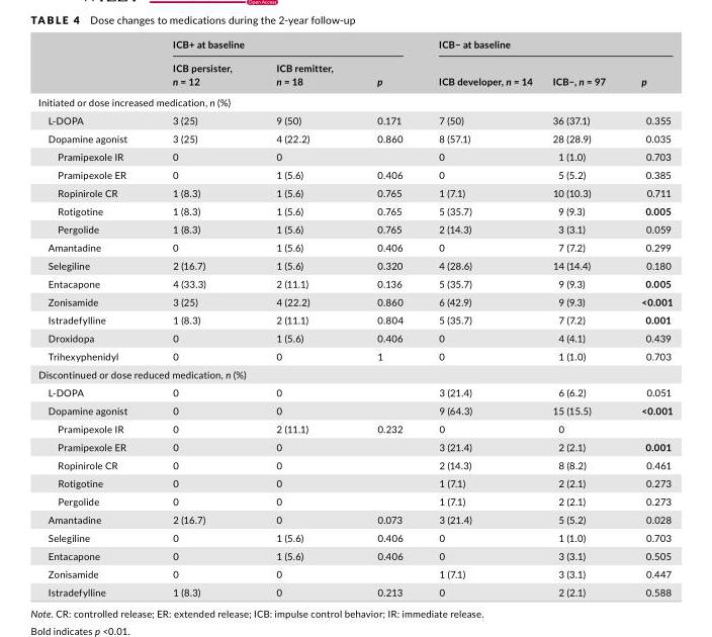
<table><thead><tr><td rowspan="2"></td><td colspan="3">ICB+ at baseline</td><td colspan="3">ICB− at baseline</td></tr><tr><td>ICB persister, n = 12</td><td>ICB remitter, n = 18</td><td>p</td><td>ICB developer, n = 14</td><td>ICB−, n = 97</td><td>p</td></tr></thead><tbody><tr><td colspan="7">Initiated or dose increased medication, n (%)</td></tr><tr><td>L- DOPA</td><td>3 (25)</td><td>9 (50)</td><td>0.171</td><td>7 (50)</td><td>36 (37.1)</td><td>0.355</td></tr><tr><td>Dopamine agonist</td><td>3 (25)</td><td>4 (22.2)</td><td>0.860</td><td>8 (57.1)</td><td>28 (28.9)</td><td>0.035</td></tr><tr><td>Pramipexole IR</td><td>0</td><td>0</td><td></td><td>0</td><td>1 (1.0)</td><td>0.703</td></tr><tr><td>Pramipexole ER</td><td>0</td><td>1 (5.6)</td><td>0.406</td><td>0</td><td>5 (5.2)</td><td>0.385</td></tr><tr><td>Ropinirole CR</td><td>1 (8.3)</td><td>1 (5.6)</td><td>0.765</td><td>1 (7.1)</td><td>10 (10.3)</td><td>0.711</td></tr><tr><td>Rotigotine</td><td>1 (8.3)</td><td>1 (5.6)</td><td>0.765</td><td>5 (35.7)</td><td>9 (9.3)</td><td>0.005</td></tr><tr><td>Pergolide</td><td>1 (8.3)</td><td>1 (5.6)</td><td>0.765</td><td>2 (14.3)</td><td>3 (3.1)</td><td>0.059</td></tr><tr><td>Amantadine</td><td>0</td><td>1 (5.6)</td><td>0.406</td><td>0</td><td>7 (7.2)</td><td>0.299</td></tr><tr><td>Selegiline</td><td>2 (16.7)</td><td>1 (5.6)</td><td>0.320</td><td>4 (28.6)</td><td>14 (14.4)</td><td>0.180</td></tr><tr><td>Entacapone</td><td>4 (33.3)</td><td>2 (11.1)</td><td>0.136</td><td>5 (35.7)</td><td>9 (9.3)</td><td>0.005</td></tr><tr><td>Zonisamide</td><td>3 (25)</td><td>4 (22.2)</td><td>0.860</td><td>6 (42.9)</td><td>9 (9.3)</td><td>&lt;0.001</td></tr><tr><td>Istradefylline</td><td>1 (8.3)</td><td>2 (11.1)</td><td>0.804</td><td>5 (35.7)</td><td>7 (7.2)</td><td>0.001</td></tr><tr><td>Droxidopa</td><td>0</td><td>1 (5.6)</td><td>0.406</td><td>0</td><td>4 (4.1)</td><td>0.439</td></tr><tr><td>Trihexyphenidyl</td><td>0</td><td>0</td><td>1</td><td>0</td><td>1 (1.0)</td><td>0.703</td></tr><tr><td colspan="7">Discontinued or dose reduced medication, n (%)</td></tr><tr><td>L- DOPA</td><td>0</td><td>0</td><td></td><td>3 (21.4)</td><td>6 (6.2)</td><td>0.051</td></tr><tr><td>Dopamine agonist</td><td>0</td><td>0</td><td></td><td>9 (64.3)</td><td>15 (15.5)</td><td>&lt;0.001</td></tr><tr><td>Pramipexole IR</td><td>0</td><td>2 (11.1)</td><td>0.232</td><td>0</td><td>0</td><td></td></tr><tr><td>Pramipexole ER</td><td>0</td><td>0</td><td></td><td>3 (21.4)</td><td>2 (2.1)</td><td>0.001</td></tr><tr><td>Ropinirole CR</td><td>0</td><td>0</td><td></td><td>2 (14.3)</td><td>8 (8.2)</td><td>0.461</td></tr><tr><td>Rotigotine</td><td>0</td><td>0</td><td></td><td>1 (7.1)</td><td>2 (2.1)</td><td>0.273</td></tr><tr><td>Pergolide</td><td>0</td><td>0</td><td></td><td>1 (7.1)</td><td>2 (2.1)</td><td>0.273</td></tr><tr><td>Amantadine</td><td>2 (16.7)</td><td>0</td><td>0.073</td><td>3 (21.4)</td><td>5 (5.2)</td><td>0.028</td></tr><tr><td>Selegiline</td><td>0</td><td>1 (5.6)</td><td>0.406</td><td>0</td><td>1 (1.0)</td><td>0.703</td></tr><tr><td>Entacapone</td><td>0</td><td>1 (5.6)</td><td>0.406</td><td>0</td><td>3 (3.1)</td><td>0.505</td></tr><tr><td>Zonisamide</td><td>0</td><td>0</td><td></td><td>1 (7.1)</td><td>3 (3.1)</td><td>0.447</td></tr><tr><td>Istradefylline</td><td>1 (8.3)</td><td>0</td><td>0.213</td><td>0</td><td>2 (2.1)</td><td>0.588</td></tr></tbody></table>